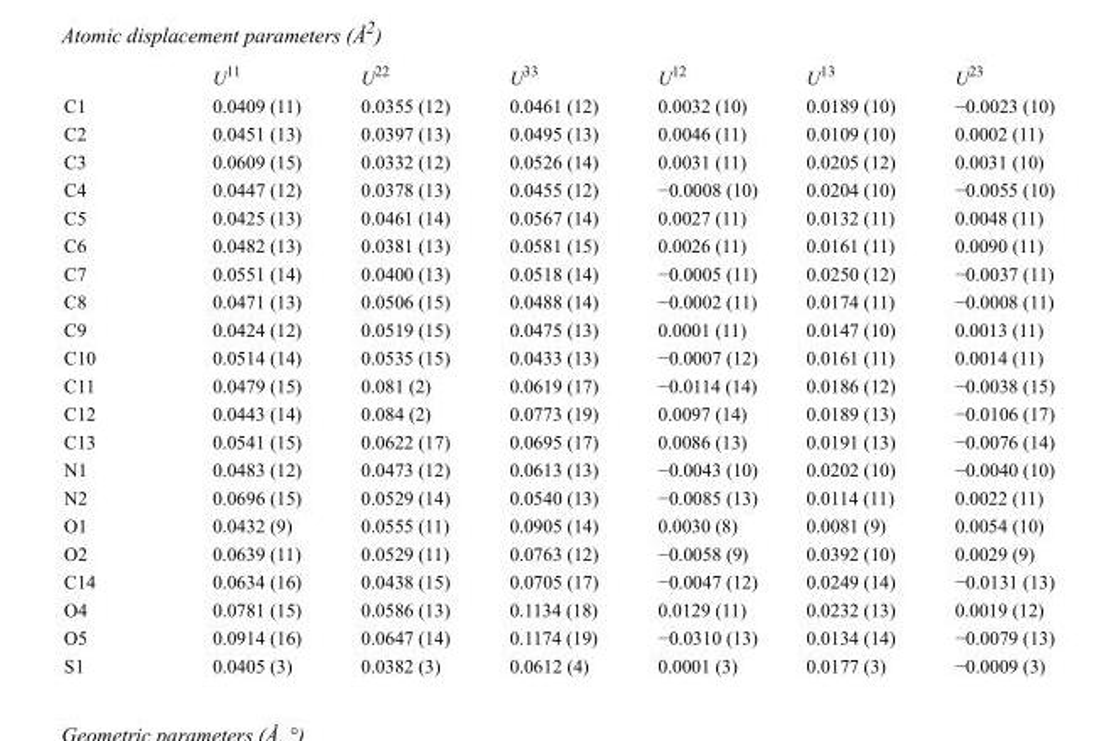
<table><thead><tr><td></td><td>U<sup>11</sup></td><td>U<sup>22</sup></td><td>U<sup>33</sup></td><td>U<sup>12</sup></td><td>U<sup>13</sup></td><td>U<sup>23</sup></td></tr></thead><tbody><tr><td>C1</td><td>0.0409 (11)</td><td>0.0355 (12)</td><td>0.0461 (12)</td><td>0.0032 (10)</td><td>0.0189 (10)</td><td>−0.0023 (10)</td></tr><tr><td>C2</td><td>0.0451 (13)</td><td>0.0397 (13)</td><td>0.0495 (13)</td><td>0.0046 (11)</td><td>0.0109 (10)</td><td>0.0002 (11)</td></tr><tr><td>C3</td><td>0.0609 (15)</td><td>0.0332 (12)</td><td>0.0526 (14)</td><td>0.0031 (11)</td><td>0.0205 (12)</td><td>0.0031 (10)</td></tr><tr><td>C4</td><td>0.0447 (12)</td><td>0.0378 (13)</td><td>0.0455 (12)</td><td>−0.0008 (10)</td><td>0.0204 (10)</td><td>−0.0055 (10)</td></tr><tr><td>C5</td><td>0.0425 (13)</td><td>0.0461 (14)</td><td>0.0567 (14)</td><td>0.0027 (11)</td><td>0.0132 (11)</td><td>0.0048 (11)</td></tr><tr><td>C6</td><td>0.0482 (13)</td><td>0.0381 (13)</td><td>0.0581 (15)</td><td>0.0026 (11)</td><td>0.0161 (11)</td><td>0.0090 (11)</td></tr><tr><td>C7</td><td>0.0551 (14)</td><td>0.0400 (13)</td><td>0.0518 (14)</td><td>−0.0005 (11)</td><td>0.0250 (12)</td><td>−0.0037 (11)</td></tr><tr><td>C8</td><td>0.0471 (13)</td><td>0.0506 (15)</td><td>0.0488 (14)</td><td>−0.0002 (11)</td><td>0.0174 (11)</td><td>−0.0008 (11)</td></tr><tr><td>C9</td><td>0.0424 (12)</td><td>0.0519 (15)</td><td>0.0475 (13)</td><td>0.0001 (11)</td><td>0.0147 (10)</td><td>0.0013 (11)</td></tr><tr><td>C10</td><td>0.0514 (14)</td><td>0.0535 (15)</td><td>0.0433 (13)</td><td>−0.0007 (12)</td><td>0.0161 (11)</td><td>0.0014 (11)</td></tr><tr><td>C11</td><td>0.0479 (15)</td><td>0.081 (2)</td><td>0.0619 (17)</td><td>−0.0114 (14)</td><td>0.0186 (12)</td><td>−0.0038 (15)</td></tr><tr><td>C12</td><td>0.0443 (14)</td><td>0.084 (2)</td><td>0.0773 (19)</td><td>0.0097 (14)</td><td>0.0189 (13)</td><td>−0.0106 (17)</td></tr><tr><td>C13</td><td>0.0541 (15)</td><td>0.0622 (17)</td><td>0.0695 (17)</td><td>0.0086 (13)</td><td>0.0191 (13)</td><td>−0.0076 (14)</td></tr><tr><td>N1</td><td>0.0483 (12)</td><td>0.0473 (12)</td><td>0.0613 (13)</td><td>−0.0043 (10)</td><td>0.0202 (10)</td><td>−0.0040 (10)</td></tr><tr><td>N2</td><td>0.0696 (15)</td><td>0.0529 (14)</td><td>0.0540 (13)</td><td>−0.0085 (13)</td><td>0.0114 (11)</td><td>0.0022 (11)</td></tr><tr><td>O1</td><td>0.0432 (9)</td><td>0.0555 (11)</td><td>0.0905 (14)</td><td>0.0030 (8)</td><td>0.0081 (9)</td><td>0.0054 (10)</td></tr><tr><td>O2</td><td>0.0639 (11)</td><td>0.0529 (11)</td><td>0.0763 (12)</td><td>−0.0058 (9)</td><td>0.0392 (10)</td><td>0.0029 (9)</td></tr><tr><td>C14</td><td>0.0634 (16)</td><td>0.0438 (15)</td><td>0.0705 (17)</td><td>−0.0047 (12)</td><td>0.0249 (14)</td><td>−0.0131 (13)</td></tr><tr><td>O4</td><td>0.0781 (15)</td><td>0.0586 (13)</td><td>0.1134 (18)</td><td>0.0129 (11)</td><td>0.0232 (13)</td><td>0.0019 (12)</td></tr><tr><td>O5</td><td>0.0914 (16)</td><td>0.0647 (14)</td><td>0.1174 (19)</td><td>−0.0310 (13)</td><td>0.0134 (14)</td><td>−0.0079 (13)</td></tr><tr><td>S1</td><td>0.0405 (3)</td><td>0.0382 (3)</td><td>0.0612 (4)</td><td>0.0001 (3)</td><td>0.0177 (3)</td><td>−0.0009 (3)</td></tr></tbody></table>